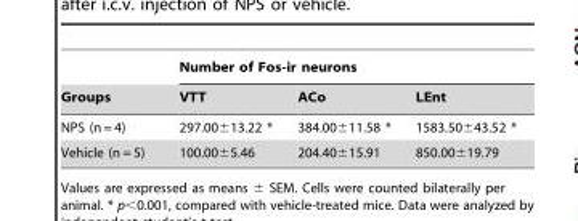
<table><thead><tr><td rowspan="2">Groups</td><td colspan="3">Number of Fos-ir neurons</td></tr><tr><td>VTT</td><td>ACo</td><td>LEnt</td></tr></thead><tbody><tr><td>NPS (n = 4)</td><td>297.00±13.22 *</td><td>384.00±11.58 *</td><td>1583.50±43.52 *</td></tr><tr><td>Vehicle (n = 5)</td><td>100.00±5.46</td><td>204.40±15.91</td><td>850.00±19.79</td></tr></tbody></table>